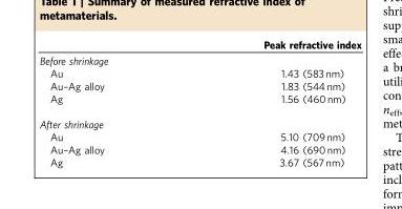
<table><thead><tr><td></td><td>Peak refractive index</td></tr></thead><tbody><tr><td colspan="2">Before shrinkage</td></tr><tr><td>Au</td><td>1.43 (583 nm)</td></tr><tr><td>Au–Ag alloy</td><td>1.83 (544 nm)</td></tr><tr><td>Ag</td><td>1.56 (460 nm)</td></tr><tr><td colspan="2">After shrinkage</td></tr><tr><td>Au</td><td>5.10 (709 nm)</td></tr><tr><td>Au–Ag alloy</td><td>4.16 (690 nm)</td></tr><tr><td>Ag</td><td>3.67 (567 nm)</td></tr></tbody></table>